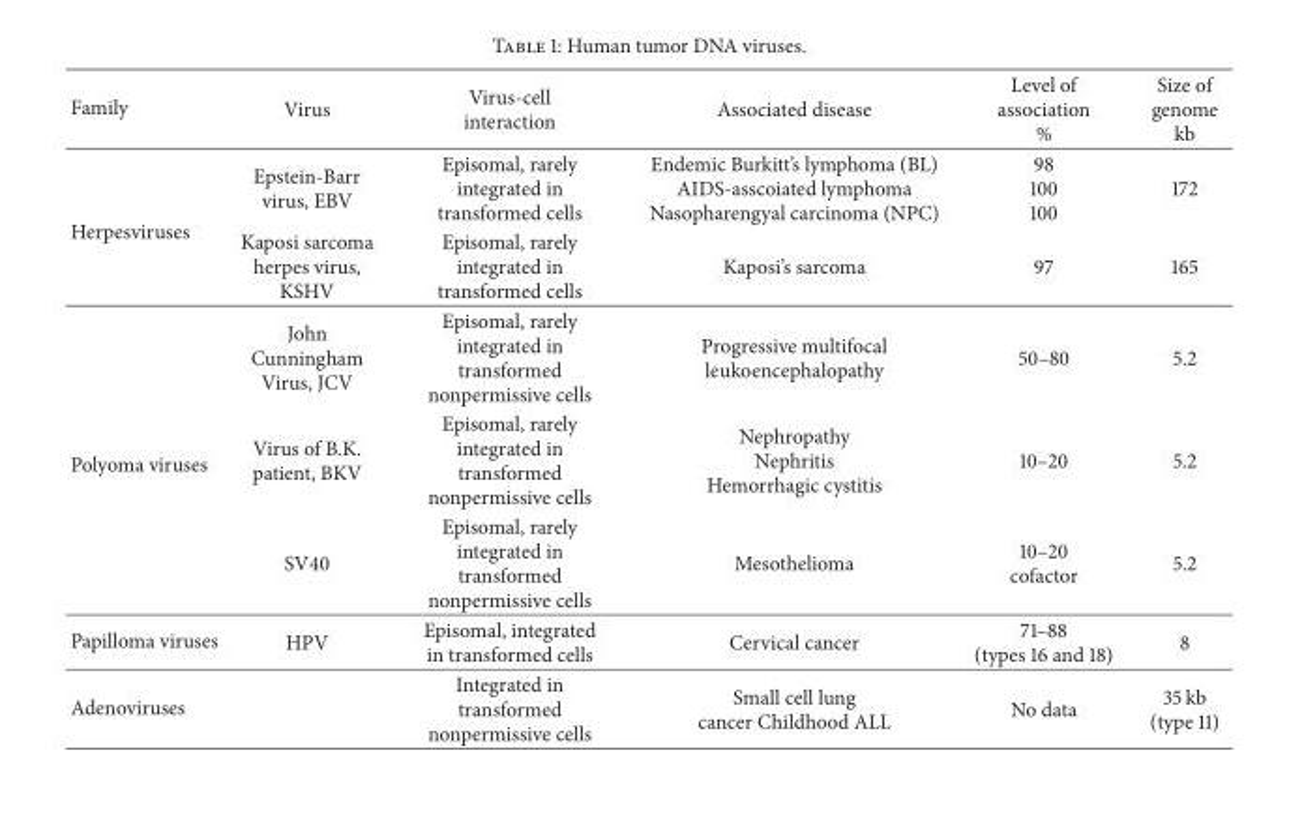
<table><thead><tr><td>Family</td><td>Virus</td><td>Virus-cell interaction</td><td>Associated disease</td><td>Level of association %</td><td>Size of genome kb</td></tr></thead><tbody><tr><td rowspan="2">Herpesviruses</td><td>Epstein-Barr virus, EBV</td><td>Episomal, rarely integrated in transformed cells</td><td>Endemic Burkitt’s lymphoma (BL) AIDS-asscoiated lymphoma Nasopharengyal carcinoma (NPC)</td><td>98 100 100</td><td>172</td></tr><tr><td>Kaposi sarcoma herpes virus, KSHV</td><td>Episomal, rarely integrated in transformed cells</td><td>Kaposi’s sarcoma</td><td>97</td><td>165</td></tr><tr><td rowspan="3">Polyoma viruses</td><td>John Cunningham Virus, JCV</td><td>Episomal, rarely integrated in transformed nonpermissive cells</td><td>Progressive multifocal leukoencephalopathy</td><td>50–80</td><td>5.2</td></tr><tr><td>Virus of B.K. patient, BKV</td><td>Episomal, rarely integrated in transformed nonpermissive cells</td><td>Nephropathy Nephritis Hemorrhagic cystitis</td><td>10–20</td><td>5.2</td></tr><tr><td>SV40</td><td>Episomal, rarely integrated in transformed nonpermissive cells</td><td>Mesothelioma</td><td>10–20 cofactor</td><td>5.2</td></tr><tr><td>Papilloma viruses</td><td>HPV</td><td>Episomal, integrated in transformed cells</td><td>Cervical cancer</td><td>71–88 (types 16 and 18)</td><td>8</td></tr><tr><td>Adenoviruses</td><td></td><td>Integrated in transformed nonpermissive cells</td><td>Small cell lung cancer Childhood ALL</td><td>No data</td><td>35 kb (type 11)</td></tr></tbody></table>